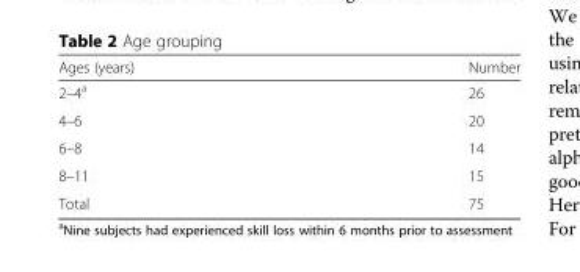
<table><thead><tr><td>Ages (years)</td><td>Number</td></tr></thead><tbody><tr><td>2–4<sup>a</sup></td><td>26</td></tr><tr><td>4–6</td><td>20</td></tr><tr><td>6–8</td><td>14</td></tr><tr><td>8–11</td><td>15</td></tr><tr><td>Total</td><td>75</td></tr></tbody></table>